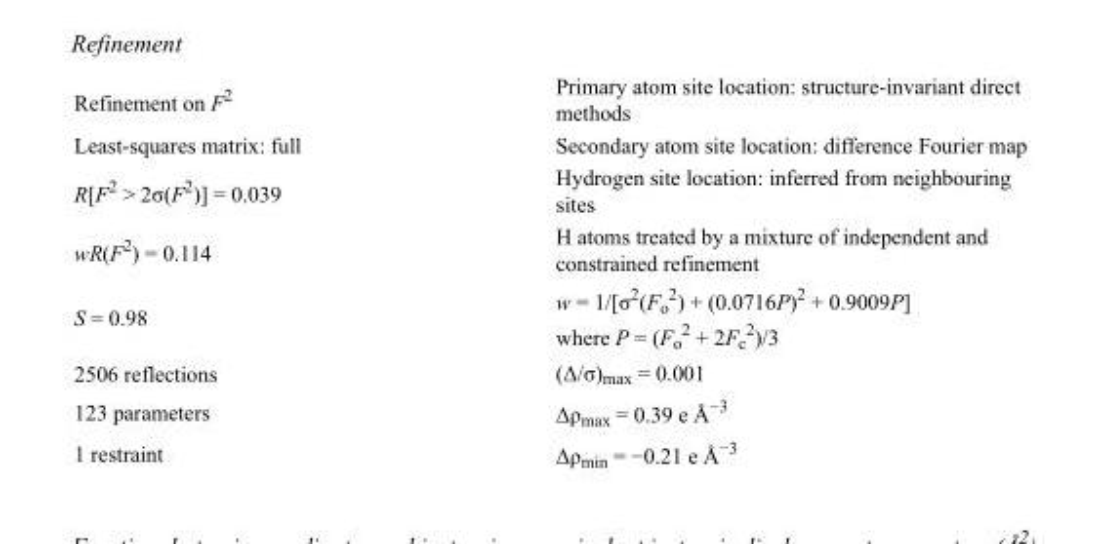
<table><tbody><tr><td>Refinement on F<sup>2</sup></td><td>Primary atom site location: structure-invariant direct methods</td></tr><tr><td>Least-squares matrix: full</td><td>Secondary atom site location: difference Fourier map</td></tr><tr><td>R[F<sup>2</sup> &gt; 2σ(F<sup>2</sup>)] = 0.039</td><td>Hydrogen site location: inferred from neighbouring sites</td></tr><tr><td>wR(F<sup>2</sup>) = 0.114</td><td>H atoms treated by a mixture of independent and constrained refinement</td></tr><tr><td>S = 0.98</td><td>w = 1/[σ<sup>2</sup>(F<sub>o</sub> <sup>2</sup>) + (0.0716P)<sup>2</sup> + 0.9009P] where P = (F<sub>o</sub> <sup>2</sup> + 2F<sub>c</sub> <sup>2</sup>)/3</td></tr><tr><td>2506 reflections</td><td>(Δ/σ)<sub>max</sub> = 0.001</td></tr><tr><td>123 parameters</td><td>Δρ<sub>max</sub> = 0.39 e Å<sup>−3</sup></td></tr><tr><td>1 restraint</td><td>Δρ<sub>min</sub> = −0.21 e Å<sup>−3</sup></td></tr></tbody></table>